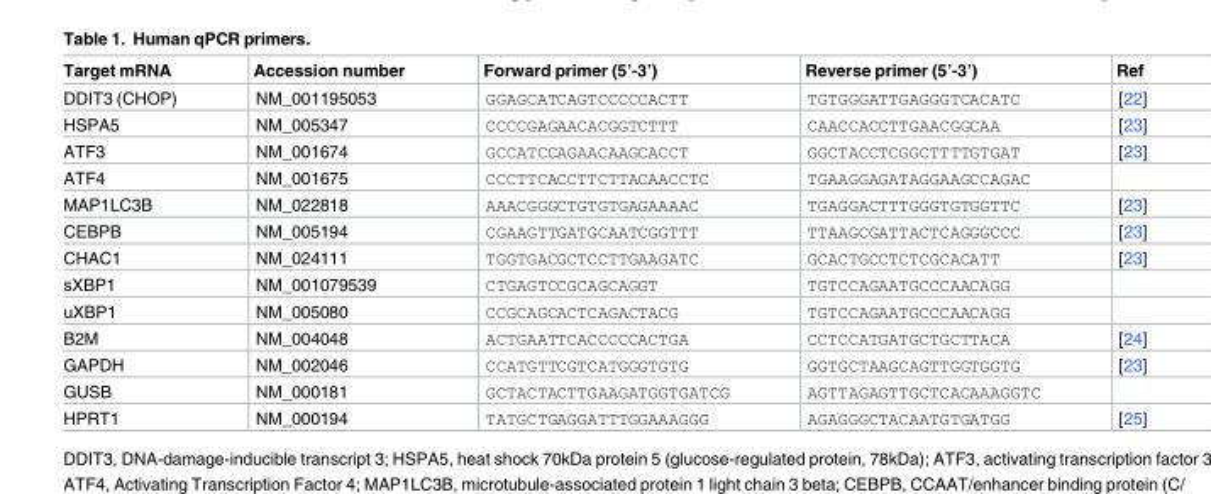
<table><thead><tr><td>Target mRNA</td><td>Accession number</td><td>Forward primer (5’-3’)</td><td>Reverse primer (5’-3’)</td><td>Ref</td></tr></thead><tbody><tr><td>DDIT3 (CHOP)</td><td>NM_001195053</td><td>GGAGCATCAGTCCCCCACTT</td><td>TGTGGGATTGAGGGTCACATC</td><td>[22]</td></tr><tr><td>HSPA5</td><td>NM_005347</td><td>CCCCGAGAACACGGTCTTT</td><td>CAACCACCTTGAACGGCAA</td><td>[23]</td></tr><tr><td>ATF3</td><td>NM_001674</td><td>GCCATCCAGAACAAGCACCT</td><td>GGCTACCTCGGCTTTTGTGAT</td><td>[23]</td></tr><tr><td>ATF4</td><td>NM_001675</td><td>CCCTTCACCTTCTTACAACCTC</td><td>TGAAGGAGATAGGAAGCCAGAC</td><td></td></tr><tr><td>MAP1LC3B</td><td>NM_022818</td><td>AAACGGGCTGTGTGAGAAAAC</td><td>TGAGGACTTTGGGTGTGGTTC</td><td>[23]</td></tr><tr><td>CEBPB</td><td>NM_005194</td><td>CGAAGTTGATGCAATCGGTTT</td><td>TTAAGCGATTACTCAGGGCCC</td><td>[23]</td></tr><tr><td>CHAC1</td><td>NM_024111</td><td>TGGTGACGCTCCTTGAAGATC</td><td>GCACTGCCTCTCGCACATT</td><td>[23]</td></tr><tr><td>sXBP1</td><td>NM_001079539</td><td>CTGAGTCCGCAGCAGGT</td><td>TGTCCAGAATGCCCAACAGG</td><td></td></tr><tr><td>uXBP1</td><td>NM_005080</td><td>CCGCAGCACTCAGACTACG</td><td>TGTCCAGAATGCCCAACAGG</td><td></td></tr><tr><td>B2M</td><td>NM_004048</td><td>ACTGAATTCACCCCCACTGA</td><td>CCTCCATGATGCTGCTTACA</td><td>[24]</td></tr><tr><td>GAPDH</td><td>NM_002046</td><td>CCATGTTCGTCATGGGTGTG</td><td>GGTGCTAAGCAGTTGGTGGTG</td><td>[23]</td></tr><tr><td>GUSB</td><td>NM_000181</td><td>GCTACTACTTGAAGATGGTGATCG</td><td>AGTTAGAGTTGCTCACAAAGGTC</td><td></td></tr><tr><td>HPRT1</td><td>NM_000194</td><td>TATGCTGAGGATTTGGAAAGGG</td><td>AGAGGGCTACAATGTGATGG</td><td>[25]</td></tr></tbody></table>